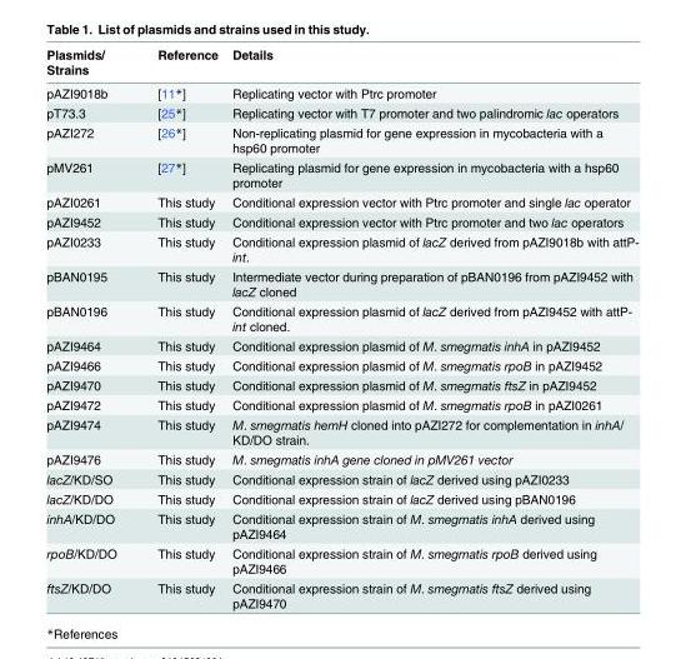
<table><thead><tr><td>Plasmids/ Strains</td><td>Reference</td><td>Details</td></tr></thead><tbody><tr><td>pAZI9018b</td><td>[11*]</td><td>Replicating vector with Ptrc promoter</td></tr><tr><td>pT73.3</td><td>[25*]</td><td>Replicating vector with T7 promoter and two palindromic lac operators</td></tr><tr><td>pAZI272</td><td>[26*]</td><td>Non-replicating plasmid for gene expression in mycobacteria with a hsp60 promoter</td></tr><tr><td>pMV261</td><td>[27*]</td><td>Replicating plasmid for gene expression in mycobacteria with a hsp60 promoter</td></tr><tr><td>pAZI0261</td><td>This study</td><td>Conditional expression vector with Ptrc promoter and single lac operator</td></tr><tr><td>pAZI9452</td><td>This study</td><td>Conditional expression vector with Ptrc promoter and two lac operators</td></tr><tr><td>pAZI0233</td><td>This study</td><td>Conditional expression plasmid of lacZ derived from pAZI9018b with attP- int.</td></tr><tr><td>pBAN0195</td><td>This study</td><td>Intermediate vector during preparation of pBAN0196 from pAZI9452 with lacZ cloned</td></tr><tr><td>pBAN0196</td><td>This study</td><td>Conditional expression plasmid of lacZ derived from pAZI9452 with attP- int cloned.</td></tr><tr><td>pAZI9464</td><td>This study</td><td>Conditional expression plasmid of M. smegmatis inhA in pAZI9452</td></tr><tr><td>pAZI9466</td><td>This study</td><td>Conditional expression plasmid of M. smegmatis rpoB in pAZI9452</td></tr><tr><td>pAZI9470</td><td>This study</td><td>Conditional expression plasmid of M. smegmatis ftsZ in pAZI9452</td></tr><tr><td>pAZI9472</td><td>This study</td><td>Conditional expression plasmid of M. smegmatis rpoB in pAZI0261</td></tr><tr><td>pAZI9474</td><td>This study</td><td>M. smegmatis hemH cloned into pAZI272 for complementation in inhA/ KD/DO strain.</td></tr><tr><td>pAZI9476</td><td>This study</td><td>M. smegmatis inhA gene cloned in pMV261 vector</td></tr><tr><td>lacZ/KD/SO</td><td>This study</td><td>Conditional expression strain of lacZ derived using pAZI0233</td></tr><tr><td>lacZ/KD/DO</td><td>This study</td><td>Conditional expression strain of lacZ derived using pBAN0196</td></tr><tr><td>inhA/KD/DO</td><td>This study</td><td>Conditional expression strain of M. smegmatis inhA derived using pAZI9464</td></tr><tr><td>rpoB/KD/DO</td><td>This study</td><td>Conditional expression strain of M. smegmatis rpoB derived using pAZI9466</td></tr><tr><td>ftsZ/KD/DO</td><td>This study</td><td>Conditional expression strain of M. smegmatis ftsZ derived using pAZI9470</td></tr></tbody></table>